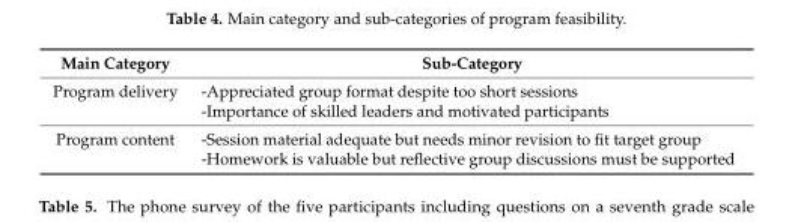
<table><thead><tr><td>Main Category</td><td>Sub-Category</td></tr></thead><tbody><tr><td rowspan="2">Program delivery</td><td>-Appreciated group format despite too short sessions</td></tr><tr><td>-Importance of skilled leaders and motivated participants</td></tr><tr><td rowspan="2">Program content</td><td>-Session material adequate but needs minor revision to fit target group</td></tr><tr><td>-Homework is valuable but reflective group discussions must be supported</td></tr></tbody></table>